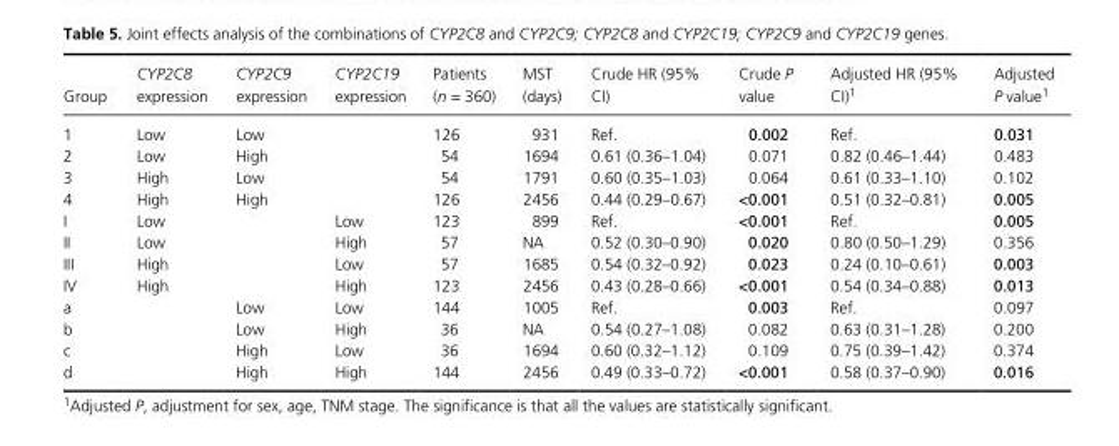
<table><thead><tr><td>Group</td><td>CYP2C8 expression</td><td>CYP2C9 expression</td><td>CYP2C19 expression</td><td>Patients (n = 360)</td><td>MST (days)</td><td>Crude HR (95% CI)</td><td>Crude P value</td><td>Adjusted HR (95% CI)1</td><td>Adjusted P value1</td></tr></thead><tbody><tr><td>1</td><td>Low</td><td>Low</td><td></td><td>126</td><td>931</td><td>Ref.</td><td>0.002</td><td>Ref.</td><td>0.031</td></tr><tr><td>2</td><td>Low</td><td>High</td><td></td><td>54</td><td>1694</td><td>0.61 (0.36–1.04)</td><td>0.071</td><td>0.82 (0.46–1.44)</td><td>0.483</td></tr><tr><td>3</td><td>High</td><td>Low</td><td></td><td>54</td><td>1791</td><td>0.60 (0.35–1.03)</td><td>0.064</td><td>0.61 (0.33–1.10)</td><td>0.102</td></tr><tr><td>4</td><td>High</td><td>High</td><td></td><td>126</td><td>2456</td><td>0.44 (0.29–0.67)</td><td>&lt;0.001</td><td>0.51 (0.32–0.81)</td><td>0.005</td></tr><tr><td>I</td><td>Low</td><td></td><td>Low</td><td>123</td><td>899</td><td>Ref.</td><td>&lt;0.001</td><td>Ref.</td><td>0.005</td></tr><tr><td>II</td><td>Low</td><td></td><td>High</td><td>57</td><td>NA</td><td>0.52 (0.30–0.90)</td><td>0.020</td><td>0.80 (0.50–1.29)</td><td>0.356</td></tr><tr><td>III</td><td>High</td><td></td><td>Low</td><td>57</td><td>1685</td><td>0.54 (0.32–0.92)</td><td>0.023</td><td>0.24 (0.10–0.61)</td><td>0.003</td></tr><tr><td>IV</td><td>High</td><td></td><td>High</td><td>123</td><td>2456</td><td>0.43 (0.28–0.66)</td><td>&lt;0.001</td><td>0.54 (0.34–0.88)</td><td>0.013</td></tr><tr><td>a</td><td></td><td>Low</td><td>Low</td><td>144</td><td>1005</td><td>Ref.</td><td>0.003</td><td>Ref.</td><td>0.097</td></tr><tr><td>b</td><td></td><td>Low</td><td>High</td><td>36</td><td>NA</td><td>0.54 (0.27–1.08)</td><td>0.082</td><td>0.63 (0.31–1.28)</td><td>0.200</td></tr><tr><td>c</td><td></td><td>High</td><td>Low</td><td>36</td><td>1694</td><td>0.60 (0.32–1.12)</td><td>0.109</td><td>0.75 (0.39–1.42)</td><td>0.374</td></tr><tr><td>d</td><td></td><td>High</td><td>High</td><td>144</td><td>2456</td><td>0.49 (0.33–0.72)</td><td>&lt;0.001</td><td>0.58 (0.37–0.90)</td><td>0.016</td></tr></tbody></table>